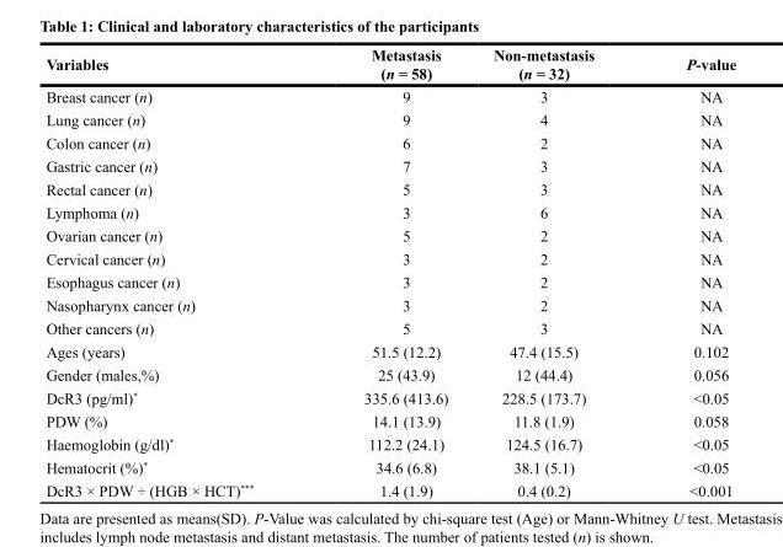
<table><thead><tr><td>Variables</td><td>Metastasis (n = 58)</td><td>Non-metastasis (n = 32)</td><td>P-value</td></tr></thead><tbody><tr><td>Breast cancer (n)</td><td>9</td><td>3</td><td>NA</td></tr><tr><td>Lung cancer (n)</td><td>9</td><td>4</td><td>NA</td></tr><tr><td>Colon cancer (n)</td><td>6</td><td>2</td><td>NA</td></tr><tr><td>Gastric cancer (n)</td><td>7</td><td>3</td><td>NA</td></tr><tr><td>Rectal cancer (n)</td><td>5</td><td>3</td><td>NA</td></tr><tr><td>Lymphoma (n)</td><td>3</td><td>6</td><td>NA</td></tr><tr><td>Ovarian cancer (n)</td><td>5</td><td>2</td><td>NA</td></tr><tr><td>Cervical cancer (n)</td><td>3</td><td>2</td><td>NA</td></tr><tr><td>Esophagus cancer (n)</td><td>3</td><td>2</td><td>NA</td></tr><tr><td>Nasopharynx cancer (n)</td><td>3</td><td>2</td><td>NA</td></tr><tr><td>Other cancers (n)</td><td>5</td><td>3</td><td>NA</td></tr><tr><td>Ages (years)</td><td>51.5 (12.2)</td><td>47.4 (15.5)</td><td>0.102</td></tr><tr><td>Gender (males,%)</td><td>25 (43.9)</td><td>12 (44.4)</td><td>0.056</td></tr><tr><td>DcR3 (pg/ml)*</td><td>335.6 (413.6)</td><td>228.5 (173.7)</td><td>&lt;0.05</td></tr><tr><td>PDW (%)</td><td>14.1 (13.9)</td><td>11.8 (1.9)</td><td>0.058</td></tr><tr><td>Haemoglobin (g/dl)*</td><td>112.2 (24.1)</td><td>124.5 (16.7)</td><td>&lt;0.05</td></tr><tr><td>Hematocrit (%)*</td><td>34.6 (6.8)</td><td>38.1 (5.1)</td><td>&lt;0.05</td></tr><tr><td>DcR3 × PDW ÷ (HGB × HCT)***</td><td>1.4 (1.9)</td><td>0.4 (0.2)</td><td>&lt;0.001</td></tr></tbody></table>